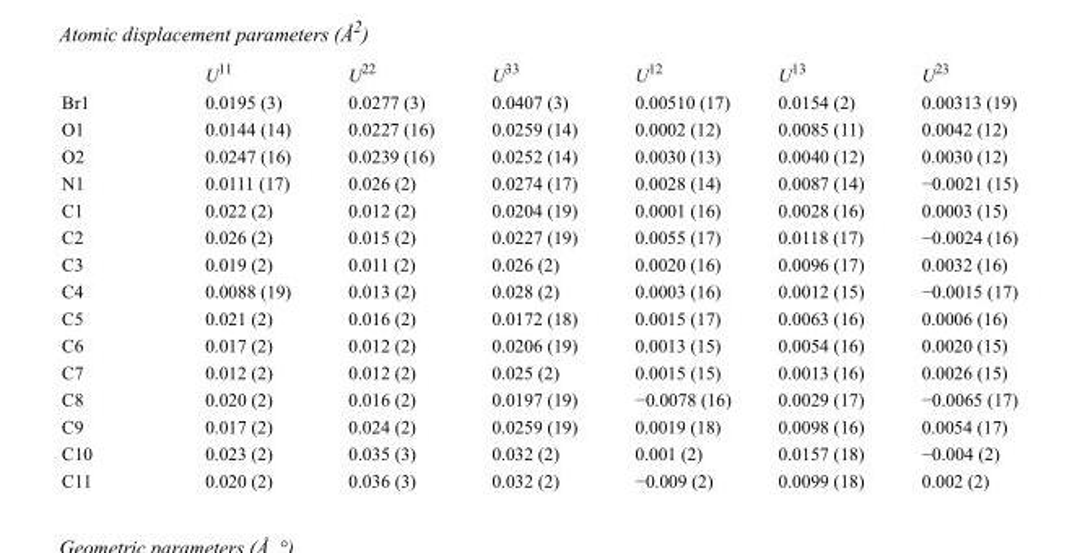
<table><thead><tr><td></td><td>U<sup>11</sup></td><td>U<sup>22</sup></td><td>U<sup>33</sup></td><td>U<sup>12</sup></td><td>U<sup>13</sup></td><td>U<sup>23</sup></td></tr></thead><tbody><tr><td>Br1</td><td>0.0195 (3)</td><td>0.0277 (3)</td><td>0.0407 (3)</td><td>0.00510 (17)</td><td>0.0154 (2)</td><td>0.00313 (19)</td></tr><tr><td>O1</td><td>0.0144 (14)</td><td>0.0227 (16)</td><td>0.0259 (14)</td><td>0.0002 (12)</td><td>0.0085 (11)</td><td>0.0042 (12)</td></tr><tr><td>O2</td><td>0.0247 (16)</td><td>0.0239 (16)</td><td>0.0252 (14)</td><td>0.0030 (13)</td><td>0.0040 (12)</td><td>0.0030 (12)</td></tr><tr><td>N1</td><td>0.0111 (17)</td><td>0.026 (2)</td><td>0.0274 (17)</td><td>0.0028 (14)</td><td>0.0087 (14)</td><td>−0.0021 (15)</td></tr><tr><td>C1</td><td>0.022 (2)</td><td>0.012 (2)</td><td>0.0204 (19)</td><td>0.0001 (16)</td><td>0.0028 (16)</td><td>0.0003 (15)</td></tr><tr><td>C2</td><td>0.026 (2)</td><td>0.015 (2)</td><td>0.0227 (19)</td><td>0.0055 (17)</td><td>0.0118 (17)</td><td>−0.0024 (16)</td></tr><tr><td>C3</td><td>0.019 (2)</td><td>0.011 (2)</td><td>0.026 (2)</td><td>0.0020 (16)</td><td>0.0096 (17)</td><td>0.0032 (16)</td></tr><tr><td>C4</td><td>0.0088 (19)</td><td>0.013 (2)</td><td>0.028 (2)</td><td>0.0003 (16)</td><td>0.0012 (15)</td><td>−0.0015 (17)</td></tr><tr><td>C5</td><td>0.021 (2)</td><td>0.016 (2)</td><td>0.0172 (18)</td><td>0.0015 (17)</td><td>0.0063 (16)</td><td>0.0006 (16)</td></tr><tr><td>C6</td><td>0.017 (2)</td><td>0.012 (2)</td><td>0.0206 (19)</td><td>0.0013 (15)</td><td>0.0054 (16)</td><td>0.0020 (15)</td></tr><tr><td>C7</td><td>0.012 (2)</td><td>0.012 (2)</td><td>0.025 (2)</td><td>0.0015 (15)</td><td>0.0013 (16)</td><td>0.0026 (15)</td></tr><tr><td>C8</td><td>0.020 (2)</td><td>0.016 (2)</td><td>0.0197 (19)</td><td>−0.0078 (16)</td><td>0.0029 (17)</td><td>−0.0065 (17)</td></tr><tr><td>C9</td><td>0.017 (2)</td><td>0.024 (2)</td><td>0.0259 (19)</td><td>0.0019 (18)</td><td>0.0098 (16)</td><td>0.0054 (17)</td></tr><tr><td>C10</td><td>0.023 (2)</td><td>0.035 (3)</td><td>0.032 (2)</td><td>0.001 (2)</td><td>0.0157 (18)</td><td>−0.004 (2)</td></tr><tr><td>C11</td><td>0.020 (2)</td><td>0.036 (3)</td><td>0.032 (2)</td><td>−0.009 (2)</td><td>0.0099 (18)</td><td>0.002 (2)</td></tr></tbody></table>